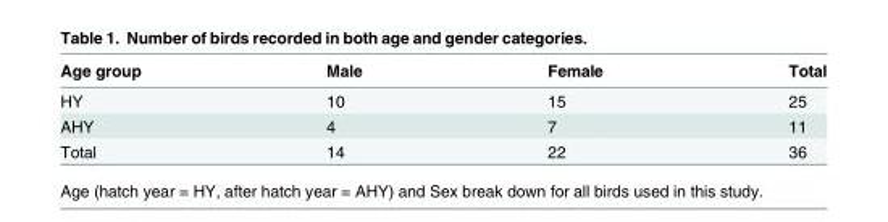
<table><thead><tr><td>Age group</td><td>Male</td><td>Female</td><td>Total</td></tr></thead><tbody><tr><td>HY</td><td>10</td><td>15</td><td>25</td></tr><tr><td>AHY</td><td>4</td><td>7</td><td>11</td></tr><tr><td>Total</td><td>14</td><td>22</td><td>36</td></tr></tbody></table>